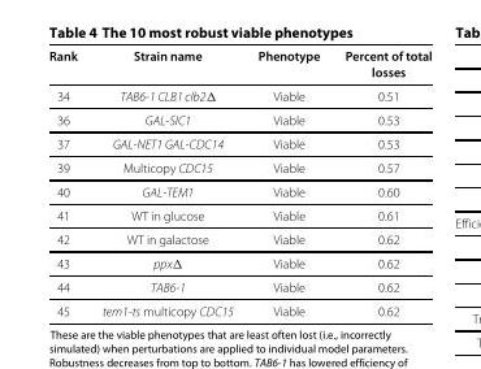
<table><thead><tr><td>Rank</td><td>Strain name</td><td>Phenotype</td><td>Percent of total losses</td></tr></thead><tbody><tr><td>34</td><td>TAB6-1 CLB1 clb2Δ</td><td>Viable</td><td>0.51</td></tr><tr><td>36</td><td>GAL-SIC1</td><td>Viable</td><td>0.53</td></tr><tr><td>37</td><td>GAL-NET1 GAL-CDC14</td><td>Viable</td><td>0.53</td></tr><tr><td>39</td><td>Multicopy CDC15</td><td>Viable</td><td>0.57</td></tr><tr><td>40</td><td>GAL-TEM1</td><td>Viable</td><td>0.60</td></tr><tr><td>41</td><td>WT in glucose</td><td>Viable</td><td>0.61</td></tr><tr><td>42</td><td>WT in galactose</td><td>Viable</td><td>0.62</td></tr><tr><td>43</td><td>ppxΔ</td><td>Viable</td><td>0.62</td></tr><tr><td>44</td><td>TAB6-1</td><td>Viable</td><td>0.62</td></tr><tr><td>45</td><td>tem1-ts multicopy CDC15</td><td>Viable</td><td>0.62</td></tr></tbody></table>